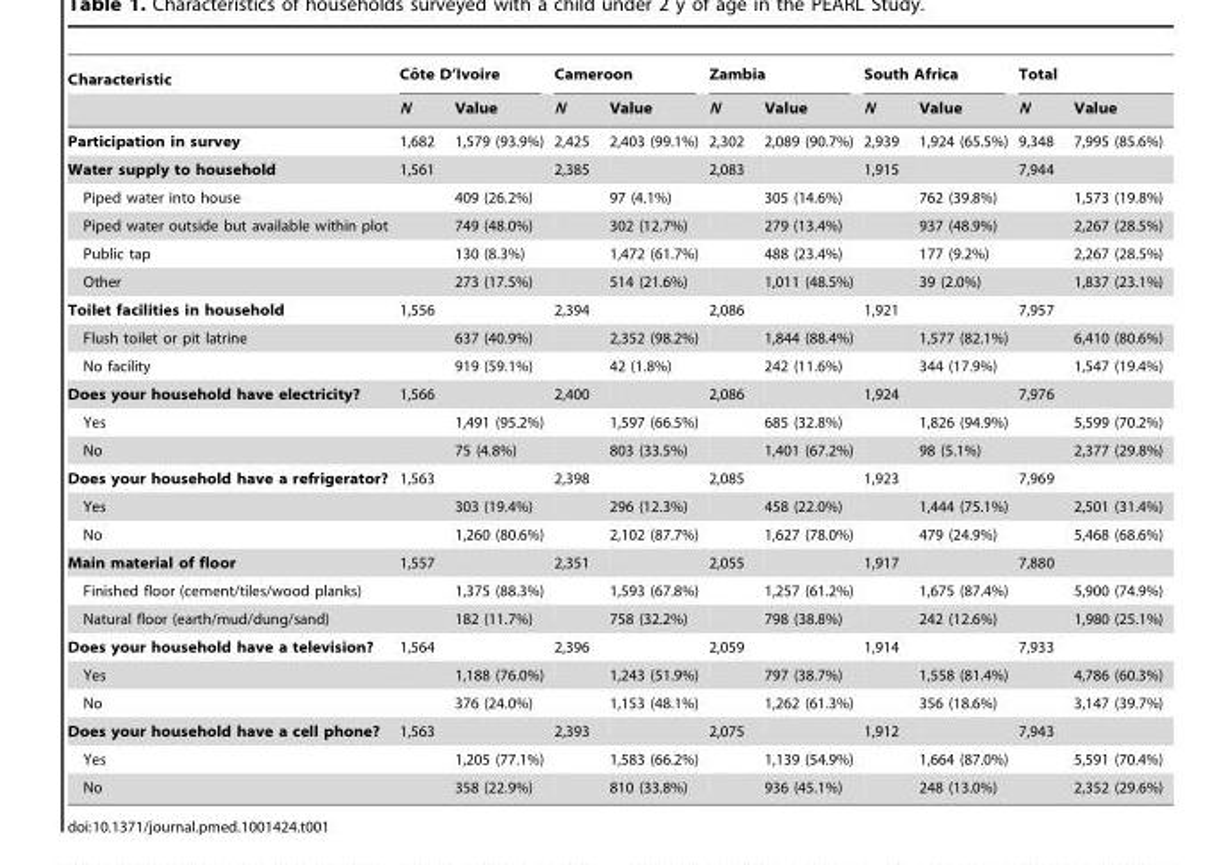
<table><thead><tr><td rowspan="2">Characteristic</td><td colspan="2">Coˆ te D’Ivoire</td><td colspan="2">Cameroon</td><td colspan="2">Zambia</td><td colspan="2">South Africa</td><td colspan="2">Total</td></tr><tr><td>N</td><td>Value</td><td>N</td><td>Value</td><td>N</td><td>Value</td><td>N</td><td>Value</td><td>N</td><td>Value</td></tr></thead><tbody><tr><td>Participation in survey</td><td>1,682</td><td>1,579 (93.9%)</td><td>2,425</td><td>2,403 (99.1%)</td><td>2,302</td><td>2,089 (90.7%)</td><td>2,939</td><td>1,924 (65.5%)</td><td>9,348</td><td>7,995 (85.6%)</td></tr><tr><td>Water supply to household</td><td>1,561</td><td></td><td>2,385</td><td></td><td>2,083</td><td></td><td>1,915</td><td></td><td>7,944</td><td></td></tr><tr><td>Piped water into house</td><td></td><td>409 (26.2%)</td><td></td><td>97 (4.1%)</td><td></td><td>305 (14.6%)</td><td></td><td>762 (39.8%)</td><td></td><td>1,573 (19.8%)</td></tr><tr><td>Piped water outside but available within plot</td><td></td><td>749 (48.0%)</td><td></td><td>302 (12.7%)</td><td></td><td>279 (13.4%)</td><td></td><td>937 (48.9%)</td><td></td><td>2,267 (28.5%)</td></tr><tr><td>Public tap</td><td></td><td>130 (8.3%)</td><td></td><td>1,472 (61.7%)</td><td></td><td>488 (23.4%)</td><td></td><td>177 (9.2%)</td><td></td><td>2,267 (28.5%)</td></tr><tr><td>Other</td><td></td><td>273 (17.5%)</td><td></td><td>514 (21.6%)</td><td></td><td>1,011 (48.5%)</td><td></td><td>39 (2.0%)</td><td></td><td>1,837 (23.1%)</td></tr><tr><td>Toilet facilities in household</td><td>1,556</td><td></td><td>2,394</td><td></td><td>2,086</td><td></td><td>1,921</td><td></td><td>7,957</td><td></td></tr><tr><td>Flush toilet or pit latrine</td><td></td><td>637 (40.9%)</td><td></td><td>2,352 (98.2%)</td><td></td><td>1,844 (88.4%)</td><td></td><td>1,577 (82.1%)</td><td></td><td>6,410 (80.6%)</td></tr><tr><td>No facility</td><td></td><td>919 (59.1%)</td><td></td><td>42 (1.8%)</td><td></td><td>242 (11.6%)</td><td></td><td>344 (17.9%)</td><td></td><td>1,547 (19.4%)</td></tr><tr><td>Does your household have electricity?</td><td>1,566</td><td></td><td>2,400</td><td></td><td>2,086</td><td></td><td>1,924</td><td></td><td>7,976</td><td></td></tr><tr><td>Yes</td><td></td><td>1,491 (95.2%)</td><td></td><td>1,597 (66.5%)</td><td></td><td>685 (32.8%)</td><td></td><td>1,826 (94.9%)</td><td></td><td>5,599 (70.2%)</td></tr><tr><td>No</td><td></td><td>75 (4.8%)</td><td></td><td>803 (33.5%)</td><td></td><td>1,401 (67.2%)</td><td></td><td>98 (5.1%)</td><td></td><td>2,377 (29.8%)</td></tr><tr><td>Does your household have a refrigerator?</td><td>1,563</td><td></td><td>2,398</td><td></td><td>2,085</td><td></td><td>1,923</td><td></td><td>7,969</td><td></td></tr><tr><td>Yes</td><td></td><td>303 (19.4%)</td><td></td><td>296 (12.3%)</td><td></td><td>458 (22.0%)</td><td></td><td>1,444 (75.1%)</td><td></td><td>2,501 (31.4%)</td></tr><tr><td>No</td><td></td><td>1,260 (80.6%)</td><td></td><td>2,102 (87.7%)</td><td></td><td>1,627 (78.0%)</td><td></td><td>479 (24.9%)</td><td></td><td>5,468 (68.6%)</td></tr><tr><td>Main material of floor</td><td>1,557</td><td></td><td>2,351</td><td></td><td>2,055</td><td></td><td>1,917</td><td></td><td>7,880</td><td></td></tr><tr><td>Finished floor (cement/tiles/wood planks)</td><td></td><td>1,375 (88.3%)</td><td></td><td>1,593 (67.8%)</td><td></td><td>1,257 (61.2%)</td><td></td><td>1,675 (87.4%)</td><td></td><td>5,900 (74.9%)</td></tr><tr><td>Natural floor (earth/mud/dung/sand)</td><td></td><td>182 (11.7%)</td><td></td><td>758 (32.2%)</td><td></td><td>798 (38.8%)</td><td></td><td>242 (12.6%)</td><td></td><td>1,980 (25.1%)</td></tr><tr><td>Does your household have a television?</td><td>1,564</td><td></td><td>2,396</td><td></td><td>2,059</td><td></td><td>1,914</td><td></td><td>7,933</td><td></td></tr><tr><td>Yes</td><td></td><td>1,188 (76.0%)</td><td></td><td>1,243 (51.9%)</td><td></td><td>797 (38.7%)</td><td></td><td>1,558 (81.4%)</td><td></td><td>4,786 (60.3%)</td></tr><tr><td>No</td><td></td><td>376 (24.0%)</td><td></td><td>1,153 (48.1%)</td><td></td><td>1,262 (61.3%)</td><td></td><td>356 (18.6%)</td><td></td><td>3,147 (39.7%)</td></tr><tr><td>Does your household have a cell phone?</td><td>1,563</td><td></td><td>2,393</td><td></td><td>2,075</td><td></td><td>1,912</td><td></td><td>7,943</td><td></td></tr><tr><td>Yes</td><td></td><td>1,205 (77.1%)</td><td></td><td>1,583 (66.2%)</td><td></td><td>1,139 (54.9%)</td><td></td><td>1,664 (87.0%)</td><td></td><td>5,591 (70.4%)</td></tr><tr><td>No</td><td></td><td>358 (22.9%)</td><td></td><td>810 (33.8%)</td><td></td><td>936 (45.1%)</td><td></td><td>248 (13.0%)</td><td></td><td>2,352 (29.6%)</td></tr></tbody></table>